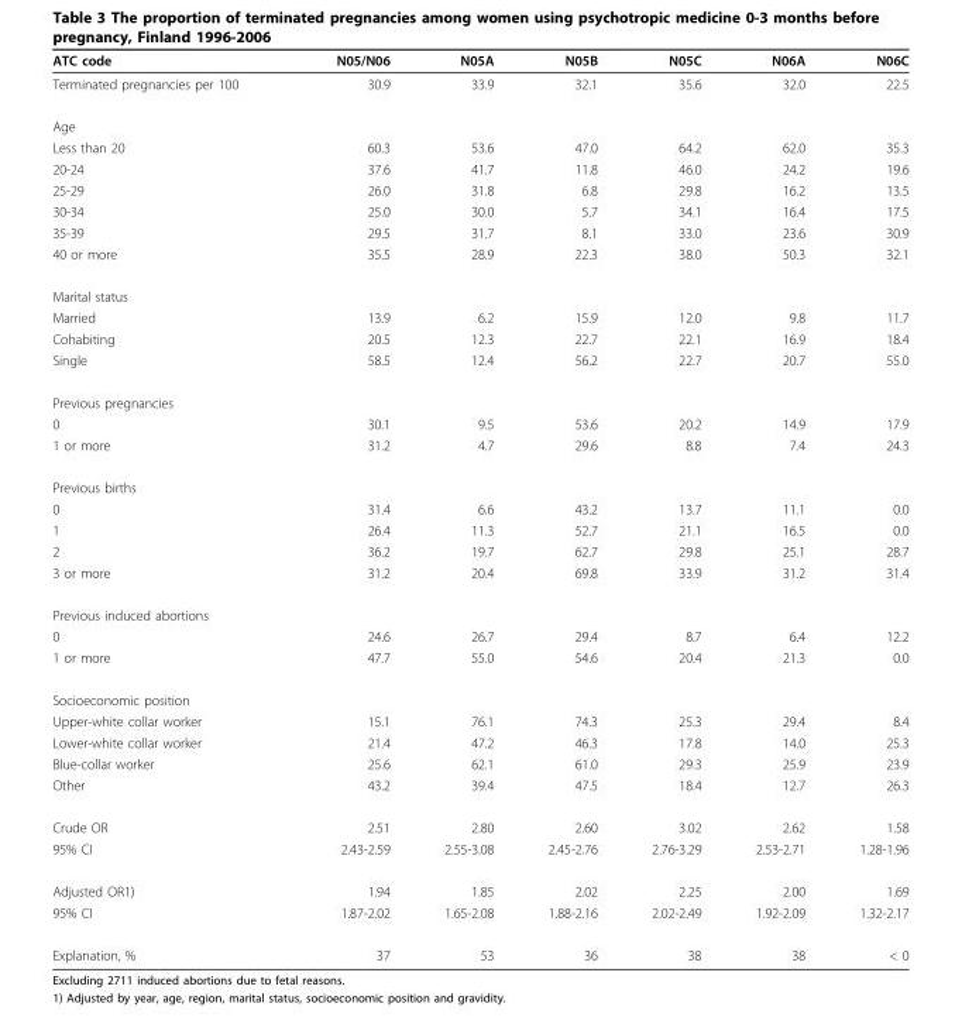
<table><thead><tr><td>ATC code</td><td>N05/N06</td><td>N05A</td><td>N05B</td><td>N05C</td><td>N06A</td><td>N06C</td></tr></thead><tbody><tr><td>Terminated pregnancies per 100</td><td>30.9</td><td>33.9</td><td>32.1</td><td>35.6</td><td>32.0</td><td>22.5</td></tr><tr><td colspan="7">Age</td></tr><tr><td>Less than 20</td><td>60.3</td><td>53.6</td><td>47.0</td><td>64.2</td><td>62.0</td><td>35.3</td></tr><tr><td>20-24</td><td>37.6</td><td>41.7</td><td>11.8</td><td>46.0</td><td>24.2</td><td>19.6</td></tr><tr><td>25-29</td><td>26.0</td><td>31.8</td><td>6.8</td><td>29.8</td><td>16.2</td><td>13.5</td></tr><tr><td>30-34</td><td>25.0</td><td>30.0</td><td>5.7</td><td>34.1</td><td>16.4</td><td>17.5</td></tr><tr><td>35-39</td><td>29.5</td><td>31.7</td><td>8.1</td><td>33.0</td><td>23.6</td><td>30.9</td></tr><tr><td>40 or more</td><td>35.5</td><td>28.9</td><td>22.3</td><td>38.0</td><td>50.3</td><td>32.1</td></tr><tr><td colspan="7">Marital status</td></tr><tr><td>Married</td><td>13.9</td><td>6.2</td><td>15.9</td><td>12.0</td><td>9.8</td><td>11.7</td></tr><tr><td>Cohabiting</td><td>20.5</td><td>12.3</td><td>22.7</td><td>22.1</td><td>16.9</td><td>18.4</td></tr><tr><td>Single</td><td>58.5</td><td>12.4</td><td>56.2</td><td>22.7</td><td>20.7</td><td>55.0</td></tr><tr><td colspan="7">Previous pregnancies</td></tr><tr><td>0</td><td>30.1</td><td>9.5</td><td>53.6</td><td>20.2</td><td>14.9</td><td>17.9</td></tr><tr><td>1 or more</td><td>31.2</td><td>4.7</td><td>29.6</td><td>8.8</td><td>7.4</td><td>24.3</td></tr><tr><td colspan="7">Previous births</td></tr><tr><td>0</td><td>31.4</td><td>6.6</td><td>43.2</td><td>13.7</td><td>11.1</td><td>0.0</td></tr><tr><td>1</td><td>26.4</td><td>11.3</td><td>52.7</td><td>21.1</td><td>16.5</td><td>0.0</td></tr><tr><td>2</td><td>36.2</td><td>19.7</td><td>62.7</td><td>29.8</td><td>25.1</td><td>28.7</td></tr><tr><td>3 or more</td><td>31.2</td><td>20.4</td><td>69.8</td><td>33.9</td><td>31.2</td><td>31.4</td></tr><tr><td colspan="7">Previous induced abortions</td></tr><tr><td>0</td><td>24.6</td><td>26.7</td><td>29.4</td><td>8.7</td><td>6.4</td><td>12.2</td></tr><tr><td>1 or more</td><td>47.7</td><td>55.0</td><td>54.6</td><td>20.4</td><td>21.3</td><td>0.0</td></tr><tr><td colspan="7">Socioeconomic position</td></tr><tr><td>Upper-white collar worker</td><td>15.1</td><td>76.1</td><td>74.3</td><td>25.3</td><td>29.4</td><td>8.4</td></tr><tr><td>Lower-white collar worker</td><td>21.4</td><td>47.2</td><td>46.3</td><td>17.8</td><td>14.0</td><td>25.3</td></tr><tr><td>Blue-collar worker</td><td>25.6</td><td>62.1</td><td>61.0</td><td>29.3</td><td>25.9</td><td>23.9</td></tr><tr><td>Other</td><td>43.2</td><td>39.4</td><td>47.5</td><td>18.4</td><td>12.7</td><td>26.3</td></tr><tr><td>Crude OR</td><td>2.51</td><td>2.80</td><td>2.60</td><td>3.02</td><td>2.62</td><td>1.58</td></tr><tr><td>95% CI</td><td>2.43-2.59</td><td>2.55-3.08</td><td>2.45-2.76</td><td>2.76-3.29</td><td>2.53-2.71</td><td>1.28-1.96</td></tr><tr><td>Adjusted OR1)</td><td>1.94</td><td>1.85</td><td>2.02</td><td>2.25</td><td>2.00</td><td>1.69</td></tr><tr><td>95% CI</td><td>1.87-2.02</td><td>1.65-2.08</td><td>1.88-2.16</td><td>2.02-2.49</td><td>1.92-2.09</td><td>1.32-2.17</td></tr><tr><td>Explanation, %</td><td>37</td><td>53</td><td>36</td><td>38</td><td>38</td><td>&lt; 0</td></tr></tbody></table>